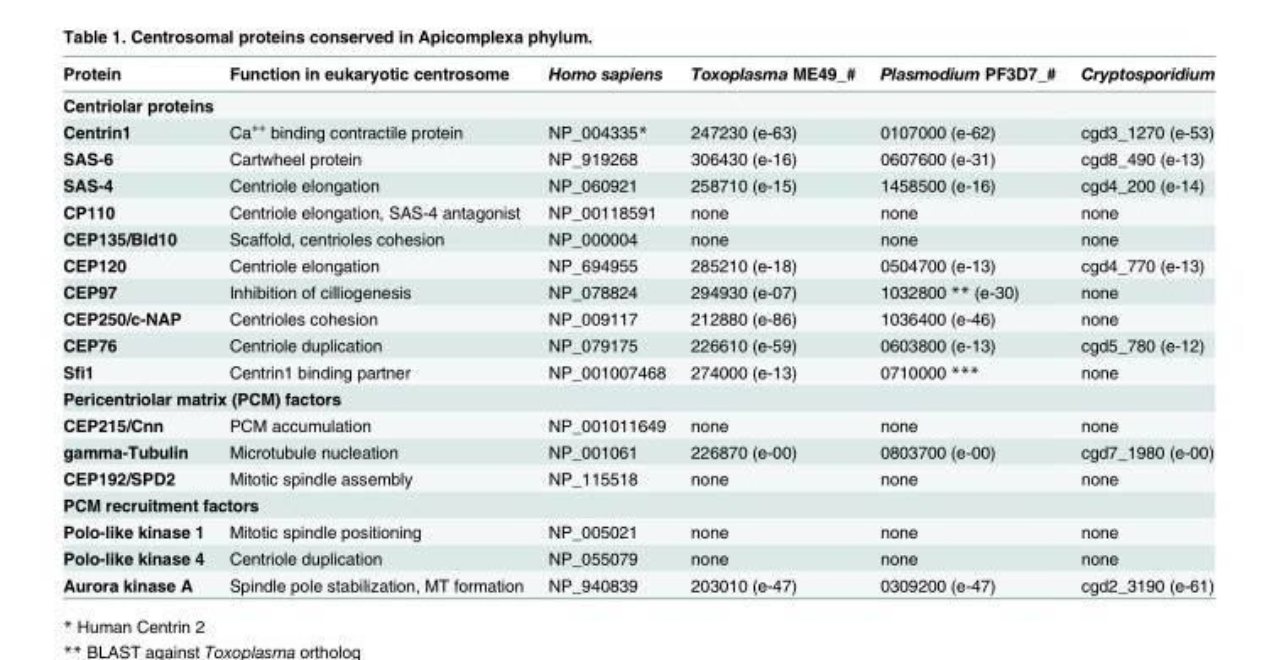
<table><thead><tr><td>Protein</td><td>Function in eukaryotic centrosome</td><td>Homo sapiens</td><td>Toxoplasma ME49_#</td><td>Plasmodium PF3D7_#</td><td>Cryptosporidium</td></tr></thead><tbody><tr><td colspan="6">Centriolar proteins</td></tr><tr><td>Centrin1</td><td>Ca<sup>++</sup> binding contractile protein</td><td>NP_004335*</td><td>247230 (e-63)</td><td>0107000 (e-62)</td><td>cgd3_1270 (e-53)</td></tr><tr><td>SAS-6</td><td>Cartwheel protein</td><td>NP_919268</td><td>306430 (e-16)</td><td>0607600 (e-31)</td><td>cgd8_490 (e-13)</td></tr><tr><td>SAS-4</td><td>Centriole elongation</td><td>NP_060921</td><td>258710 (e-15)</td><td>1458500 (e-16)</td><td>cgd4_200 (e-14)</td></tr><tr><td>CP110</td><td>Centriole elongation, SAS-4 antagonist</td><td>NP_00118591</td><td>none</td><td>none</td><td>none</td></tr><tr><td>CEP135/Bld10</td><td>Scaffold, centrioles cohesion</td><td>NP_000004</td><td>none</td><td>none</td><td>none</td></tr><tr><td>CEP120</td><td>Centriole elongation</td><td>NP_694955</td><td>285210 (e-18)</td><td>0504700 (e-13)</td><td>cgd4_770 (e-13)</td></tr><tr><td>CEP97</td><td>Inhibition of cilliogenesis</td><td>NP_078824</td><td>294930 (e-07)</td><td>1032800 ** (e-30)</td><td>none</td></tr><tr><td>CEP250/c-NAP</td><td>Centrioles cohesion</td><td>NP_009117</td><td>212880 (e-86)</td><td>1036400 (e-46)</td><td>none</td></tr><tr><td>CEP76</td><td>Centriole duplication</td><td>NP_079175</td><td>226610 (e-59)</td><td>0603800 (e-13)</td><td>cgd5_780 (e-12)</td></tr><tr><td>Sfi1</td><td>Centrin1 binding partner</td><td>NP_001007468</td><td>274000 (e-13)</td><td>0710000 ***</td><td>none</td></tr><tr><td colspan="6">Pericentriolar matrix (PCM) factors</td></tr><tr><td>CEP215/Cnn</td><td>PCM accumulation</td><td>NP_001011649</td><td>none</td><td>none</td><td>none</td></tr><tr><td>gamma-Tubulin</td><td>Microtubule nucleation</td><td>NP_001061</td><td>226870 (e-00)</td><td>0803700 (e-00)</td><td>cgd7_1980 (e-00)</td></tr><tr><td>CEP192/SPD2</td><td>Mitotic spindle assembly</td><td>NP_115518</td><td>none</td><td>none</td><td>none</td></tr><tr><td colspan="6">PCM recruitment factors</td></tr><tr><td>Polo-like kinase 1</td><td>Mitotic spindle positioning</td><td>NP_005021</td><td>none</td><td>none</td><td>none</td></tr><tr><td>Polo-like kinase 4</td><td>Centriole duplication</td><td>NP_055079</td><td>none</td><td>none</td><td>none</td></tr><tr><td>Aurora kinase A</td><td>Spindle pole stabilization, MT formation</td><td>NP_940839</td><td>203010 (e-47)</td><td>0309200 (e-47)</td><td>cgd2_3190 (e-61)</td></tr></tbody></table>